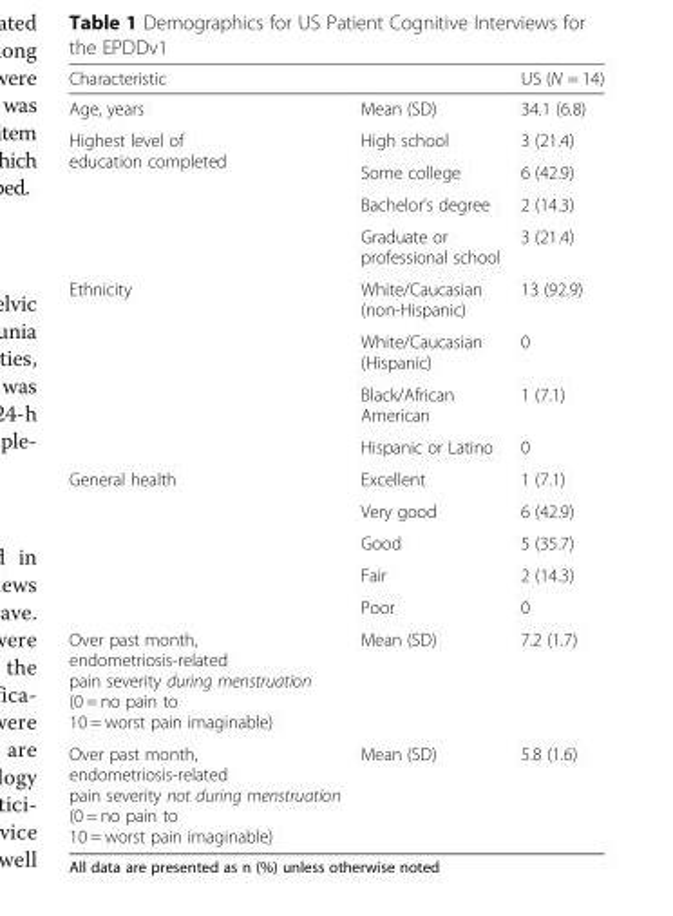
<table><thead><tr><td>Characteristic</td><td></td><td>US (N = 14)</td></tr></thead><tbody><tr><td>Age, years</td><td>Mean (SD)</td><td>34.1 (6.8)</td></tr><tr><td rowspan="4">Highest level of education completed</td><td>High school</td><td>3 (21.4)</td></tr><tr><td>Some college</td><td>6 (42.9)</td></tr><tr><td>Bachelor’s degree</td><td>2 (14.3)</td></tr><tr><td>Graduate or professional school</td><td>3 (21.4)</td></tr><tr><td rowspan="4">Ethnicity</td><td>White/Caucasian (non-Hispanic)</td><td>13 (92.9)</td></tr><tr><td>White/Caucasian (Hispanic)</td><td>0</td></tr><tr><td>Black/African American</td><td>1 (7.1)</td></tr><tr><td>Hispanic or Latino</td><td>0</td></tr><tr><td rowspan="5">General health</td><td>Excellent</td><td>1 (7.1)</td></tr><tr><td>Very good</td><td>6 (42.9)</td></tr><tr><td>Good</td><td>5 (35.7)</td></tr><tr><td>Fair</td><td>2 (14.3)</td></tr><tr><td>Poor</td><td>0</td></tr><tr><td>Over past month, endometriosis-related pain severity during menstruation (0 = no pain to 10 = worst pain imaginable)</td><td>Mean (SD)</td><td>7.2 (1.7)</td></tr><tr><td>Over past month, endometriosis-related pain severity not during menstruation (0 = no pain to 10 = worst pain imaginable)</td><td>Mean (SD)</td><td>5.8 (1.6)</td></tr></tbody></table>